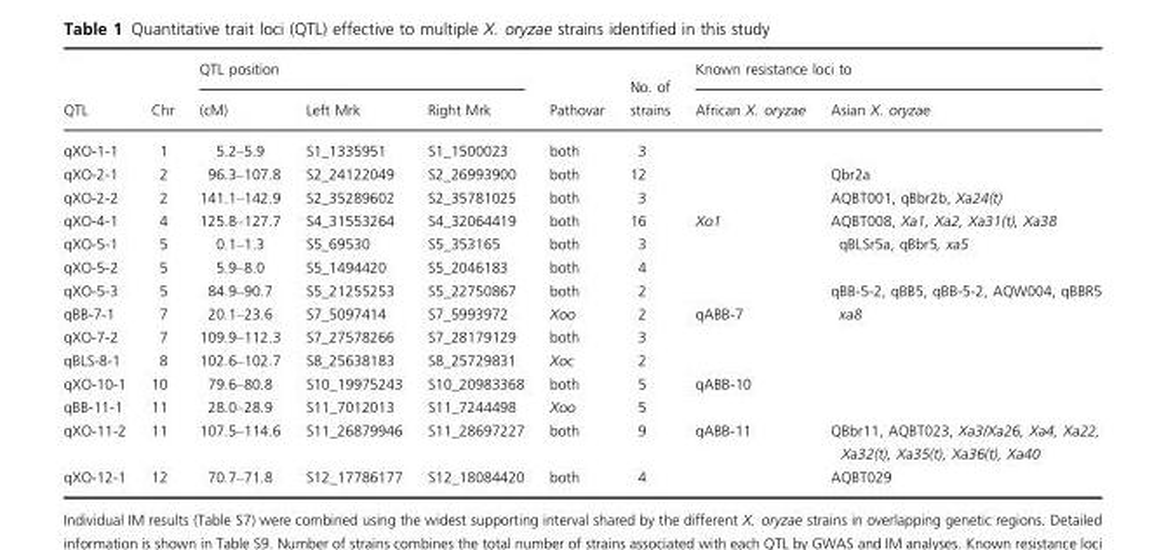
<table><thead><tr><td rowspan="2">QTL</td><td rowspan="2">Chr</td><td colspan="3">QTL position</td><td rowspan="2">Pathovar</td><td rowspan="2">No. of strains</td><td colspan="2">Known resistance loci to</td></tr><tr><td>(cM)</td><td>Left Mrk</td><td>Right Mrk</td><td>African X. oryzae</td><td>Asian X. oryzae</td></tr></thead><tbody><tr><td>qXO-1-1</td><td>1</td><td>5.2–5.9</td><td>S1_1335951</td><td>S1_1500023</td><td>both</td><td>3</td><td></td><td></td></tr><tr><td>qXO-2-1</td><td>2</td><td>96.3–107.8</td><td>S2_24122049</td><td>S2_26993900</td><td>both</td><td>12</td><td></td><td>Qbr2a</td></tr><tr><td>qXO-2-2</td><td>2</td><td>141.1–142.9</td><td>S2_35289602</td><td>S2_35781025</td><td>both</td><td>3</td><td></td><td>AQBT001, qBbr2b, Xa24(t)</td></tr><tr><td>qXO-4-1</td><td>4</td><td>125.8–127.7</td><td>S4_31553264</td><td>S4_32064419</td><td>both</td><td>16</td><td>Xo1</td><td>AQBT008, Xa1, Xa2, Xa31(t), Xa38</td></tr><tr><td>qXO-5-1</td><td>5</td><td>0.1–1.3</td><td>S5_69530</td><td>S5_353165</td><td>both</td><td>3</td><td></td><td>qBLSr5a, qBbr5, xa5</td></tr><tr><td>qXO-5-2</td><td>5</td><td>5.9–8.0</td><td>S5_1494420</td><td>S5_2046183</td><td>both</td><td>4</td><td></td><td></td></tr><tr><td>qXO-5-3</td><td>5</td><td>84.9–90.7</td><td>S5_21255253</td><td>S5_22750867</td><td>both</td><td>2</td><td></td><td>qBB-5-2, qBB5, qBB-5-2, AQW004, qBBR5</td></tr><tr><td>qBB-7-1</td><td>7</td><td>20.1–23.6</td><td>S7_5097414</td><td>S7_5993972</td><td>Xoo</td><td>2</td><td>qABB-7</td><td>xa8</td></tr><tr><td>qXO-7-2</td><td>7</td><td>109.9–112.3</td><td>S7_27578266</td><td>S7_28179129</td><td>both</td><td>3</td><td></td><td></td></tr><tr><td>qBLS-8-1</td><td>8</td><td>102.6–102.7</td><td>S8_25638183</td><td>S8_25729831</td><td>Xoc</td><td>2</td><td></td><td></td></tr><tr><td>qXO-10-1</td><td>10</td><td>79.6–80.8</td><td>S10_19975243</td><td>S10_20983368</td><td>both</td><td>5</td><td>qABB-10</td><td></td></tr><tr><td>qBB-11-1</td><td>11</td><td>28.0–28.9</td><td>S11_7012013</td><td>S11_7244498</td><td>Xoo</td><td>5</td><td></td><td></td></tr><tr><td>qXO-11-2</td><td>11</td><td>107.5–114.6</td><td>S11_26879946</td><td>S11_28697227</td><td>both</td><td>9</td><td>qABB-11</td><td>QBbr11, AQBT023, Xa3/Xa26, Xa4, Xa22, Xa32(t), Xa35(t), Xa36(t), Xa40</td></tr><tr><td>qXO-12-1</td><td>12</td><td>70.7–71.8</td><td>S12_17786177</td><td>S12_18084420</td><td>both</td><td>4</td><td></td><td>AQBT029</td></tr></tbody></table>